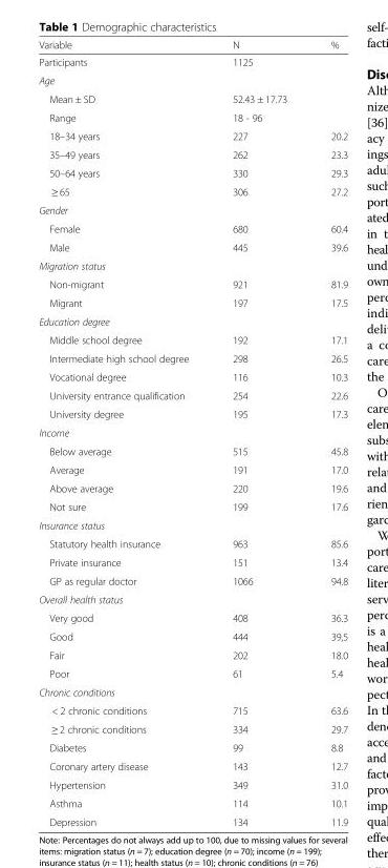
<table><thead><tr><td>Variable</td><td>N</td><td>%</td></tr></thead><tbody><tr><td>Participants</td><td>1125</td><td></td></tr><tr><td colspan="3">Age</td></tr><tr><td>Mean ± SD</td><td>52.43 ± 17.73</td><td></td></tr><tr><td>Range</td><td>18 - 96</td><td></td></tr><tr><td>18–34 years</td><td>227</td><td>20.2</td></tr><tr><td>35–49 years</td><td>262</td><td>23.3</td></tr><tr><td>50–64 years</td><td>330</td><td>29.3</td></tr><tr><td>≥ 65</td><td>306</td><td>27.2</td></tr><tr><td colspan="3">Gender</td></tr><tr><td>Female</td><td>680</td><td>60.4</td></tr><tr><td>Male</td><td>445</td><td>39.6</td></tr><tr><td colspan="3">Migration status</td></tr><tr><td>Non-migrant</td><td>921</td><td>81.9</td></tr><tr><td>Migrant</td><td>197</td><td>17.5</td></tr><tr><td colspan="3">Education degree</td></tr><tr><td>Middle school degree</td><td>192</td><td>17.1</td></tr><tr><td>Intermediate high school degree</td><td>298</td><td>26.5</td></tr><tr><td>Vocational degree</td><td>116</td><td>10.3</td></tr><tr><td>University entrance qualification</td><td>254</td><td>22.6</td></tr><tr><td>University degree</td><td>195</td><td>17.3</td></tr><tr><td colspan="3">Income</td></tr><tr><td>Below average</td><td>515</td><td>45.8</td></tr><tr><td>Average</td><td>191</td><td>17.0</td></tr><tr><td>Above average</td><td>220</td><td>19.6</td></tr><tr><td>Not sure</td><td>199</td><td>17.6</td></tr><tr><td colspan="3">Insurance status</td></tr><tr><td>Statutory health insurance</td><td>963</td><td>85.6</td></tr><tr><td>Private insurance</td><td>151</td><td>13.4</td></tr><tr><td>GP as regular doctor</td><td>1066</td><td>94.8</td></tr><tr><td colspan="3">Overall health status</td></tr><tr><td>Very good</td><td>408</td><td>36.3</td></tr><tr><td>Good</td><td>444</td><td>39,5</td></tr><tr><td>Fair</td><td>202</td><td>18.0</td></tr><tr><td>Poor</td><td>61</td><td>5.4</td></tr><tr><td colspan="3">Chronic conditions</td></tr><tr><td>&lt; 2 chronic conditions</td><td>715</td><td>63.6</td></tr><tr><td>≥ 2 chronic conditions</td><td>334</td><td>29.7</td></tr><tr><td>Diabetes</td><td>99</td><td>8.8</td></tr><tr><td>Coronary artery disease</td><td>143</td><td>12.7</td></tr><tr><td>Hypertension</td><td>349</td><td>31.0</td></tr><tr><td>Asthma</td><td>114</td><td>10.1</td></tr><tr><td>Depression</td><td>134</td><td>11.9</td></tr></tbody></table>